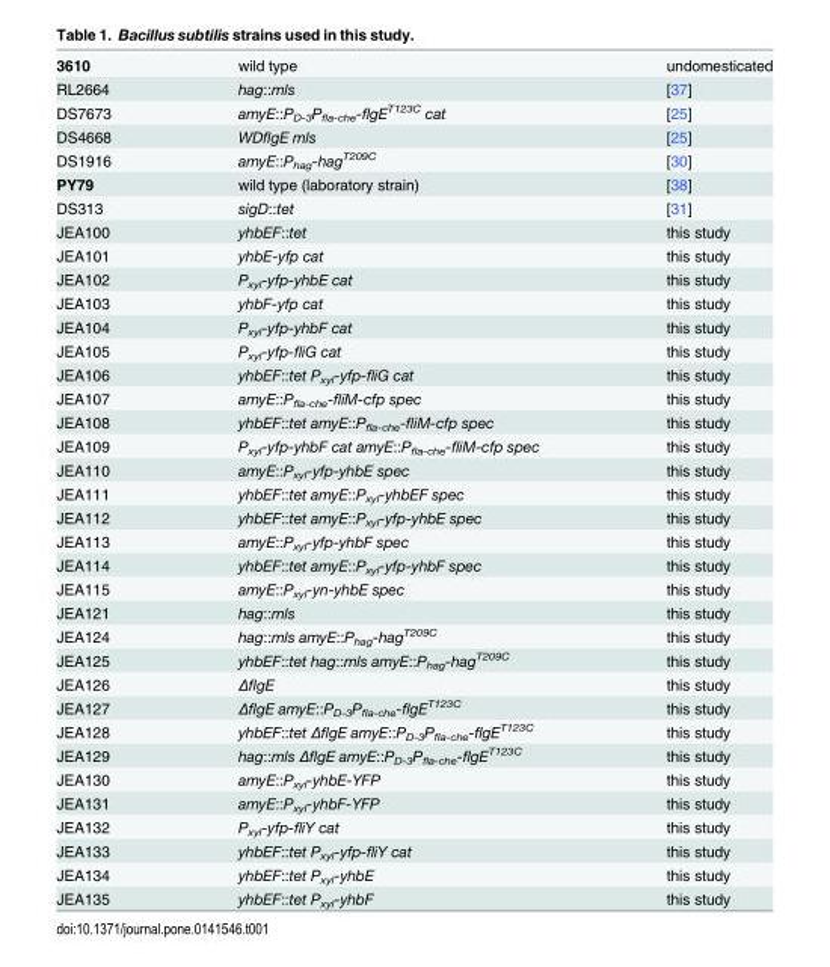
<table><tbody><tr><td>3610</td><td>wild type</td><td>undomesticated</td></tr><tr><td>RL2664</td><td>hag::mls</td><td>[37]</td></tr><tr><td>DS7673</td><td>amyE::P<sub>D-3</sub>P<sub>fla-che</sub>-flgE<sup>T123C</sup> cat</td><td>[25]</td></tr><tr><td>DS4668</td><td>WDflgE mls</td><td>[25]</td></tr><tr><td>DS1916</td><td>amyE::P<sub>hag</sub>-hag<sup>T209C</sup></td><td>[30]</td></tr><tr><td>PY79</td><td>wild type (laboratory strain)</td><td>[38]</td></tr><tr><td>DS313</td><td>sigD::tet</td><td>[31]</td></tr><tr><td>JEA100</td><td>yhbEF::tet</td><td>this study</td></tr><tr><td>JEA101</td><td>yhbE-yfp cat</td><td>this study</td></tr><tr><td>JEA102</td><td>P<sub>xyl</sub>-yfp-yhbE cat</td><td>this study</td></tr><tr><td>JEA103</td><td>yhbF-yfp cat</td><td>this study</td></tr><tr><td>JEA104</td><td>P<sub>xyl</sub>-yfp-yhbF cat</td><td>this study</td></tr><tr><td>JEA105</td><td>P<sub>xyl</sub>-yfp-fliG cat</td><td>this study</td></tr><tr><td>JEA106</td><td>yhbEF::tet P<sub>xyl</sub>-yfp-fliG cat</td><td>this study</td></tr><tr><td>JEA107</td><td>amyE::P<sub>fla-che</sub>-fliM-cfp spec</td><td>this study</td></tr><tr><td>JEA108</td><td>yhbEF::tet amyE::P<sub>fla-che</sub>-fliM-cfp spec</td><td>this study</td></tr><tr><td>JEA109</td><td>P<sub>xyl</sub>-yfp-yhbF cat amyE::P<sub>fla-che</sub>-fliM-cfp spec</td><td>this study</td></tr><tr><td>JEA110</td><td>amyE::P<sub>xyl</sub>-yfp-yhbE spec</td><td>this study</td></tr><tr><td>JEA111</td><td>yhbEF::tet amyE::P<sub>xyl</sub>-yhbEF spec</td><td>this study</td></tr><tr><td>JEA112</td><td>yhbEF::tet amyE::P<sub>xyl</sub>-yfp-yhbE spec</td><td>this study</td></tr><tr><td>JEA113</td><td>amyE::P<sub>xyl</sub>-yfp-yhbF spec</td><td>this study</td></tr><tr><td>JEA114</td><td>yhbEF::tet amyE::P<sub>xyl</sub>-yfp-yhbF spec</td><td>this study</td></tr><tr><td>JEA115</td><td>amyE::P<sub>xyl</sub>-yn-yhbE spec</td><td>this study</td></tr><tr><td>JEA121</td><td>hag::mls</td><td>this study</td></tr><tr><td>JEA124</td><td>hag::mls amyE::P<sub>hag</sub>-hag<sup>T209C</sup></td><td>this study</td></tr><tr><td>JEA125</td><td>yhbEF::tet hag::mls amyE::P<sub>hag</sub>-hag<sup>T209C</sup></td><td>this study</td></tr><tr><td>JEA126</td><td>ΔflgE</td><td>this study</td></tr><tr><td>JEA127</td><td>ΔflgE amyE::P<sub>D-3</sub>P<sub>fla-che</sub>-flgE<sup>T123C</sup></td><td>this study</td></tr><tr><td>JEA128</td><td>yhbEF::tet ΔflgE amyE::P<sub>D-3</sub>P<sub>fla-che</sub>-flgE<sup>T123C</sup></td><td>this study</td></tr><tr><td>JEA129</td><td>hag::mls ΔflgE amyE::P<sub>D-3</sub>P<sub>fla-che</sub>-flgE<sup>T123C</sup></td><td>this study</td></tr><tr><td>JEA130</td><td>amyE::P<sub>xyl</sub>-yhbE-YFP</td><td>this study</td></tr><tr><td>JEA131</td><td>amyE::P<sub>xyl</sub>-yhbF-YFP</td><td>this study</td></tr><tr><td>JEA132</td><td>P<sub>xyl</sub>-yfp-fliY cat</td><td>this study</td></tr><tr><td>JEA133</td><td>yhbEF::tet P<sub>xyl</sub>-yfp-fliY cat</td><td>this study</td></tr><tr><td>JEA134</td><td>yhbEF::tet P<sub>xyl</sub>-yhbE</td><td>this study</td></tr><tr><td>JEA135</td><td>yhbEF::tet P<sub>xyl</sub>-yhbF</td><td>this study</td></tr></tbody></table>